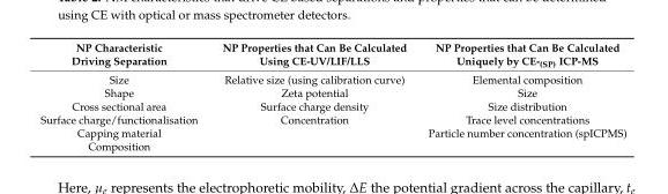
<table><thead><tr><td>NP Characteristic Driving Separation</td><td>NP Properties that Can Be Calculated Using CE-UV/LIF/LLS</td><td>NP Properties that Can Be Calculated Uniquely by CE-<sub>(SP)</sub> ICP-MS</td></tr></thead><tbody><tr><td>Size</td><td>Relative size (using calibration curve)</td><td>Elemental composition</td></tr><tr><td>Shape</td><td>Zeta potential</td><td>Size</td></tr><tr><td>Cross sectional area</td><td>Surface charge density</td><td>Size distribution</td></tr><tr><td>Surface charge/functionalisation</td><td>Concentration</td><td>Trace level concentrations</td></tr><tr><td>Capping material</td><td></td><td>Particle number concentration (spICPMS)</td></tr><tr><td>Composition</td><td></td><td></td></tr></tbody></table>